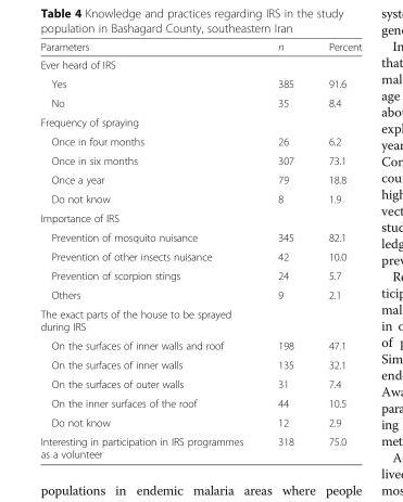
<table><thead><tr><td>Parameters</td><td>n</td><td>Percent</td></tr></thead><tbody><tr><td colspan="3">Ever heard of IRS</td></tr><tr><td>Yes</td><td>385</td><td>91.6</td></tr><tr><td>No</td><td>35</td><td>8.4</td></tr><tr><td colspan="3">Frequency of spraying</td></tr><tr><td>Once in four months</td><td>26</td><td>6.2</td></tr><tr><td>Once in six months</td><td>307</td><td>73.1</td></tr><tr><td>Once a year</td><td>79</td><td>18.8</td></tr><tr><td>Do not know</td><td>8</td><td>1.9</td></tr><tr><td colspan="3">Importance of IRS</td></tr><tr><td>Prevention of mosquito nuisance</td><td>345</td><td>82.1</td></tr><tr><td>Prevention of other insects nuisance</td><td>42</td><td>10.0</td></tr><tr><td>Prevention of scorpion stings</td><td>24</td><td>5.7</td></tr><tr><td>Others</td><td>9</td><td>2.1</td></tr><tr><td colspan="3">The exact parts of the house to be sprayed during IRS</td></tr><tr><td>On the surfaces of inner walls and roof</td><td>198</td><td>47.1</td></tr><tr><td>On the surfaces of inner walls</td><td>135</td><td>32.1</td></tr><tr><td>On the surfaces of outer walls</td><td>31</td><td>7.4</td></tr><tr><td>On the inner surfaces of the roof</td><td>44</td><td>10.5</td></tr><tr><td>Do not know</td><td>12</td><td>2.9</td></tr><tr><td>Interesting in participation in IRS programmes as a volunteer</td><td>318</td><td>75.0</td></tr></tbody></table>